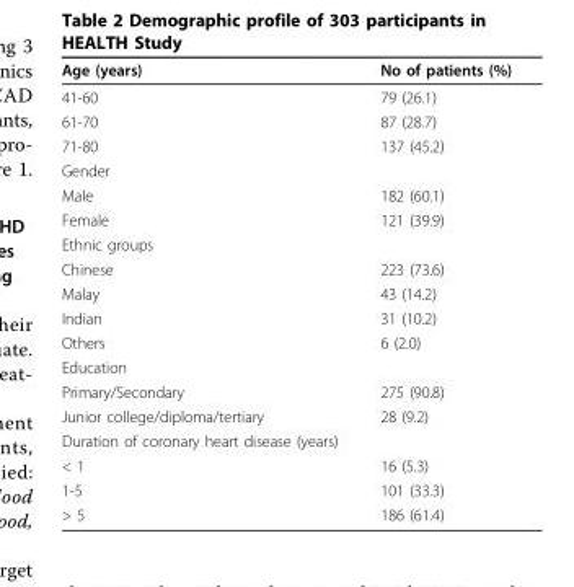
<table><thead><tr><td>Age (years)</td><td>No of patients (%)</td></tr></thead><tbody><tr><td>41-60</td><td>79 (26.1)</td></tr><tr><td>61-70</td><td>87 (28.7)</td></tr><tr><td>71-80</td><td>137 (45.2)</td></tr><tr><td colspan="2">Gender</td></tr><tr><td>Male</td><td>182 (60.1)</td></tr><tr><td>Female</td><td>121 (39.9)</td></tr><tr><td colspan="2">Ethnic groups</td></tr><tr><td>Chinese</td><td>223 (73.6)</td></tr><tr><td>Malay</td><td>43 (14.2)</td></tr><tr><td>Indian</td><td>31 (10.2)</td></tr><tr><td>Others</td><td>6 (2.0)</td></tr><tr><td colspan="2">Education</td></tr><tr><td>Primary/Secondary</td><td>275 (90.8)</td></tr><tr><td>Junior college/diploma/tertiary</td><td>28 (9.2)</td></tr><tr><td colspan="2">Duration of coronary heart disease (years)</td></tr><tr><td>&lt; 1</td><td>16 (5.3)</td></tr><tr><td>1-5</td><td>101 (33.3)</td></tr><tr><td>&gt; 5</td><td>186 (61.4)</td></tr></tbody></table>